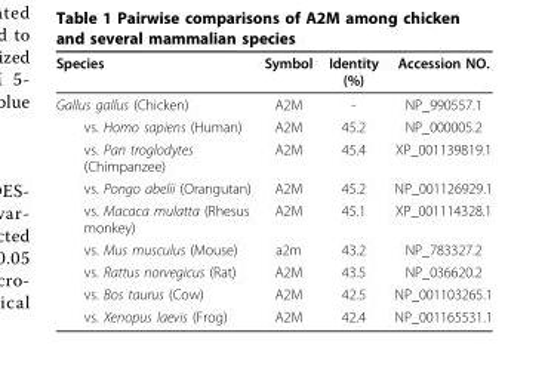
<table><thead><tr><td>Species</td><td>Symbol</td><td>Identity (%)</td><td>Accession NO.</td></tr></thead><tbody><tr><td>Gallus gallus (Chicken)</td><td>A2M</td><td>-</td><td>NP_990557.1</td></tr><tr><td>vs. Homo sapiens (Human)</td><td>A2M</td><td>45.2</td><td>NP_000005.2</td></tr><tr><td>vs. Pan troglodytes (Chimpanzee)</td><td>A2M</td><td>45.4</td><td>XP_001139819.1</td></tr><tr><td>vs. Pongo abelii (Orangutan)</td><td>A2M</td><td>45.2</td><td>NP_001126929.1</td></tr><tr><td>vs. Macaca mulatta (Rhesus monkey)</td><td>A2M</td><td>45.1</td><td>XP_001114328.1</td></tr><tr><td>vs. Mus musculus (Mouse)</td><td>a2m</td><td>43.2</td><td>NP_783327.2</td></tr><tr><td>vs. Rattus norvegicus (Rat)</td><td>A2M</td><td>43.5</td><td>NP_036620.2</td></tr><tr><td>vs. Bos taurus (Cow)</td><td>A2M</td><td>42.5</td><td>NP_001103265.1</td></tr><tr><td>vs. Xenopus laevis (Frog)</td><td>A2M</td><td>42.4</td><td>NP_001165531.1</td></tr></tbody></table>